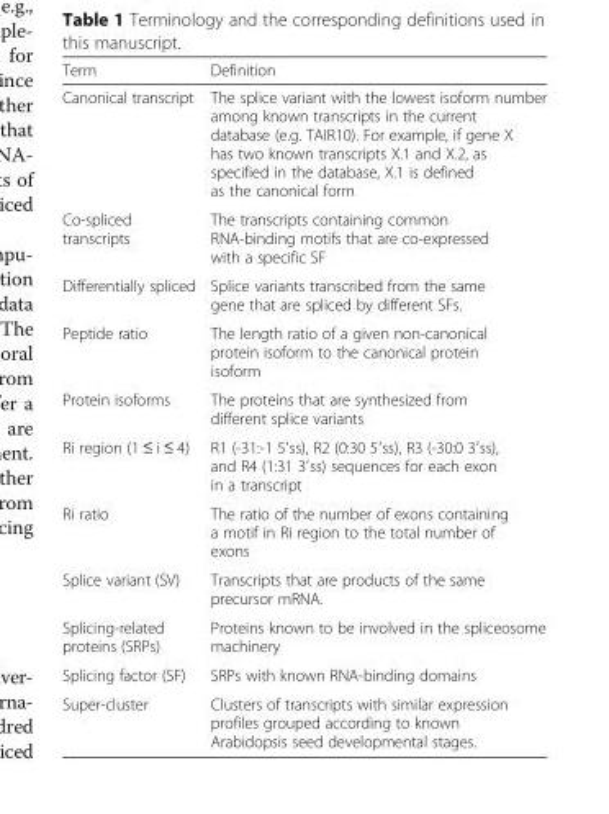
<table><thead><tr><td>Term</td><td>Definition</td></tr></thead><tbody><tr><td>Canonical transcript</td><td>The splice variant with the lowest isoform number among known transcripts in the current database (e.g. TAIR10). For example, if gene X has two known transcripts X.1 and X.2, as specified in the database, X.1 is defined as the canonical form</td></tr><tr><td>Co-spliced transcripts</td><td>The transcripts containing common RNA-binding motifs that are co-expressed with a specific SF</td></tr><tr><td>Differentially spliced</td><td>Splice variants transcribed from the same gene that are spliced by different SFs.</td></tr><tr><td>Peptide ratio</td><td>The length ratio of a given non-canonical protein isoform to the canonical protein isoform</td></tr><tr><td>Protein isoforms</td><td>The proteins that are synthesized from different splice variants</td></tr><tr><td>Ri region (1 ≤ i ≤ 4)</td><td>R1 (-31:-1 5′ss), R2 (0:30 5′ss), R3 (-30:0 3′ss), and R4 (1:31 3′ss) sequences for each exon in a transcript</td></tr><tr><td>Ri ratio</td><td>The ratio of the number of exons containing a motif in Ri region to the total number of exons</td></tr><tr><td>Splice variant (SV)</td><td>Transcripts that are products of the same precursor mRNA.</td></tr><tr><td>Splicing-related proteins (SRPs)</td><td>Proteins known to be involved in the spliceosome machinery</td></tr><tr><td>Splicing factor (SF)</td><td>SRPs with known RNA-binding domains</td></tr><tr><td>Super-cluster</td><td>Clusters of transcripts with similar expression profiles grouped according to known Arabidopsis seed developmental stages.</td></tr></tbody></table>